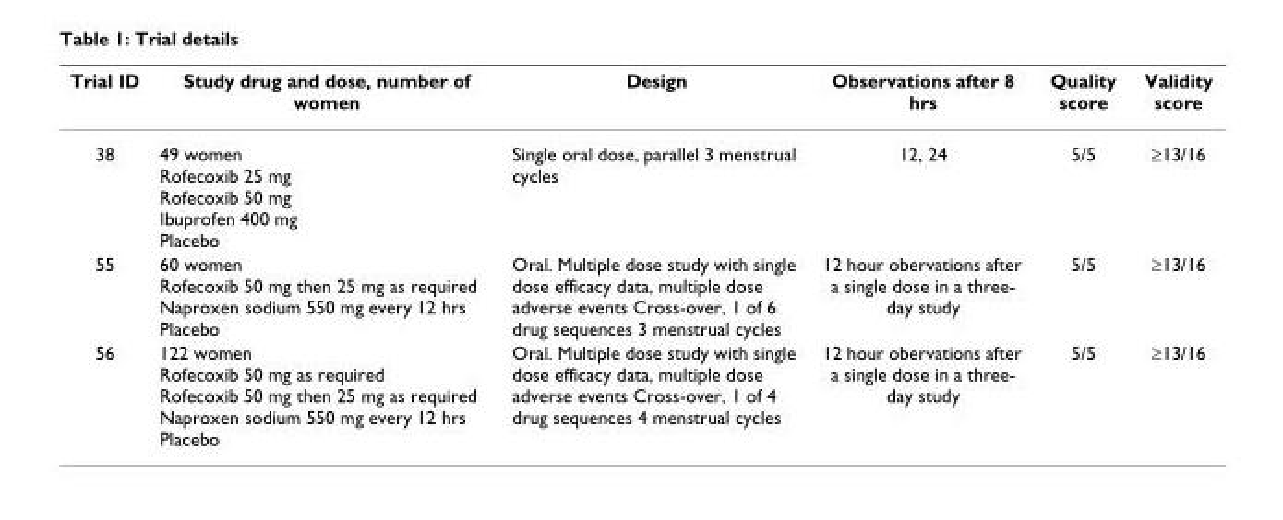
<table><thead><tr><td>Trial ID</td><td>Study drug and dose, number of women</td><td>Design</td><td>Observations after 8 hrs</td><td>Quality score</td><td>Validity score</td></tr></thead><tbody><tr><td>38</td><td>49 women Rofecoxib 25 mg Rofecoxib 50 mg Ibuprofen 400 mg Placebo</td><td>Single oral dose, parallel 3 menstrual cycles</td><td>12, 24</td><td>5/5</td><td>≥13/16</td></tr><tr><td>55</td><td>60 women Rofecoxib 50 mg then 25 mg as required Naproxen sodium 550 mg every 12 hrs Placebo</td><td>Oral. Multiple dose study with single dose efficacy data, multiple dose adverse events Cross-over, 1 of 6 drug sequences 3 menstrual cycles</td><td>12 hour obervations after a single dose in a three- day study</td><td>5/5</td><td>≥13/16</td></tr><tr><td>56</td><td>122 women Rofecoxib 50 mg as required Rofecoxib 50 mg then 25 mg as required Naproxen sodium 550 mg every 12 hrs Placebo</td><td>Oral. Multiple dose study with single dose efficacy data, multiple dose adverse events Cross-over, 1 of 4 drug sequences 4 menstrual cycles</td><td>12 hour obervations after a single dose in a three- day study</td><td>5/5</td><td>≥13/16</td></tr></tbody></table>